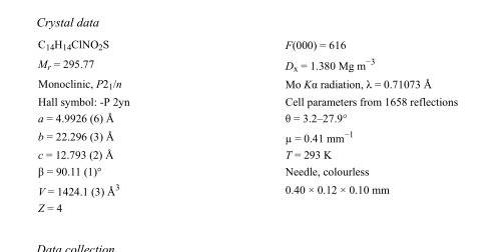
<table><tbody><tr><td>C<sub>14</sub>H<sub>14</sub>ClNO<sub>2</sub>S</td><td>F(000) = 616</td></tr><tr><td>M<sub>r</sub> = 295.77</td><td>D<sub>x</sub> = 1.380 Mg m<sup>−3</sup></td></tr><tr><td>Monoclinic, P2<sub>1</sub>/n</td><td>Mo Kα radiation, λ = 0.71073 Å</td></tr><tr><td>Hall symbol: -P 2yn</td><td>Cell parameters from 1658 reflections</td></tr><tr><td>a = 4.9926 (6) Å</td><td>θ = 3.2–27.9°</td></tr><tr><td>b = 22.296 (3) Å</td><td>µ = 0.41 mm<sup>−1</sup></td></tr><tr><td>c = 12.793 (2) Å</td><td>T = 293 K</td></tr><tr><td>β = 90.11 (1)°</td><td>Needle, colourless</td></tr><tr><td>V = 1424.1 (3) Å<sup>3</sup></td><td>0.40 × 0.12 × 0.10 mm</td></tr><tr><td>Z = 4</td><td></td></tr></tbody></table>